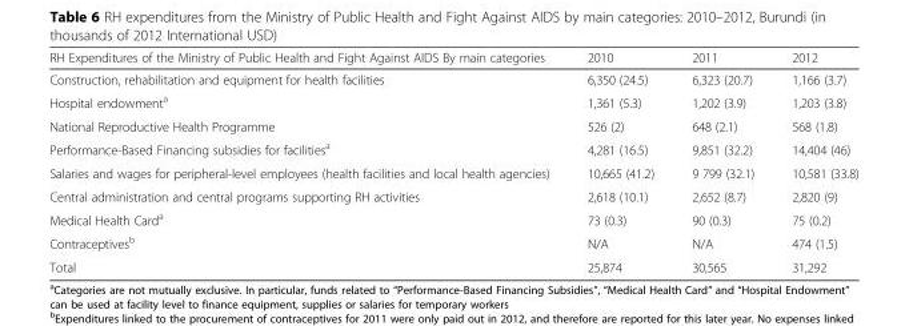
<table><thead><tr><td>RH Expenditures of the Ministry of Public Health and Fight Against AIDS By main categories</td><td>2010</td><td>2011</td><td>2012</td></tr></thead><tbody><tr><td>Construction, rehabilitation and equipment for health facilities</td><td>6,350 (24.5)</td><td>6,323 (20.7)</td><td>1,166 (3.7)</td></tr><tr><td>Hospital endowment<sup>a</sup></td><td>1,361 (5.3)</td><td>1,202 (3.9)</td><td>1,203 (3.8)</td></tr><tr><td>National Reproductive Health Programme</td><td>526 (2)</td><td>648 (2.1)</td><td>568 (1.8)</td></tr><tr><td>Performance-Based Financing subsidies for facilities<sup>a</sup></td><td>4,281 (16.5)</td><td>9,851 (32.2)</td><td>14,404 (46)</td></tr><tr><td>Salaries and wages for peripheral-level employees (health facilities and local health agencies)</td><td>10,665 (41.2)</td><td>9 799 (32.1)</td><td>10,581 (33.8)</td></tr><tr><td>Central administration and central programs supporting RH activities</td><td>2,618 (10.1)</td><td>2,652 (8.7)</td><td>2,820 (9)</td></tr><tr><td>Medical Health Card<sup>a</sup></td><td>73 (0.3)</td><td>90 (0.3)</td><td>75 (0.2)</td></tr><tr><td>Contraceptives<sup>b</sup></td><td>N/A</td><td>N/A</td><td>474 (1.5)</td></tr><tr><td>Total</td><td>25,874</td><td>30,565</td><td>31,292</td></tr></tbody></table>